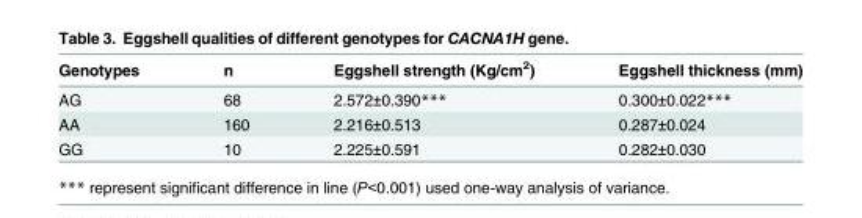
<table><thead><tr><td>Genotypes</td><td>n</td><td>Eggshell strength (Kg/cm<sup>2</sup>)</td><td>Eggshell thickness (mm)</td></tr></thead><tbody><tr><td>AG</td><td>68</td><td>2.572±0.390***</td><td>0.300±0.022***</td></tr><tr><td>AA</td><td>160</td><td>2.216±0.513</td><td>0.287±0.024</td></tr><tr><td>GG</td><td>10</td><td>2.225±0.591</td><td>0.282±0.030</td></tr></tbody></table>